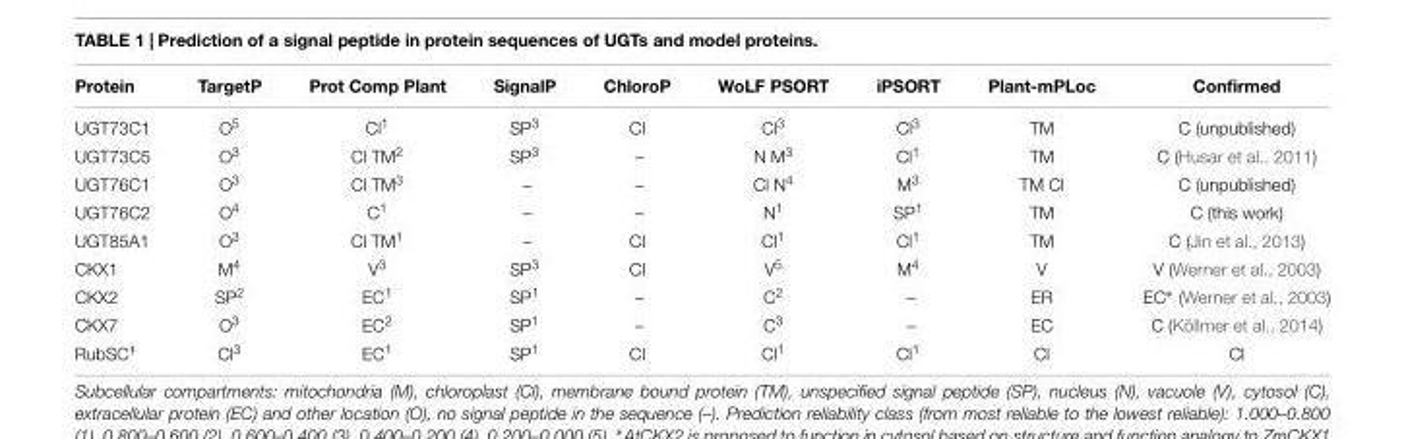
<table><thead><tr><td>Protein</td><td>TargetP</td><td>Prot Comp Plant</td><td>SignalP</td><td>ChloroP</td><td>WoLF PSORT</td><td>iPSORT</td><td>Plant-mPLoc</td><td>Confirmed</td></tr></thead><tbody><tr><td>UGT73C1</td><td>O<sup>5</sup></td><td>Cl<sup>1</sup></td><td>SP<sup>3</sup></td><td>Cl</td><td>Cl<sup>3</sup></td><td>Cl<sup>3</sup></td><td>TM</td><td>C (unpublished)</td></tr><tr><td>UGT73C5</td><td>O<sup>3</sup></td><td>Cl TM<sup>2</sup></td><td>SP<sup>3</sup></td><td>–</td><td>N M<sup>3</sup></td><td>Cl<sup>1</sup></td><td>TM</td><td>C (Husar et al., 2011)</td></tr><tr><td>UGT76C1</td><td>O<sup>3</sup></td><td>Cl TM<sup>3</sup></td><td>–</td><td>–</td><td>Cl N<sup>4</sup></td><td>M<sup>3</sup></td><td>TM Cl</td><td>C (unpublished)</td></tr><tr><td>UGT76C2</td><td>O<sup>4</sup></td><td>C<sup>1</sup></td><td>–</td><td>–</td><td>N<sup>1</sup></td><td>SP<sup>1</sup></td><td>TM</td><td>C (this work)</td></tr><tr><td>UGT85A1</td><td>O<sup>3</sup></td><td>Cl TM<sup>1</sup></td><td>–</td><td>Cl</td><td>Cl<sup>1</sup></td><td>Cl<sup>1</sup></td><td>TM</td><td>C (Jin et al., 2013)</td></tr><tr><td>CKX1</td><td>M<sup>4</sup></td><td>V<sup>3</sup></td><td>SP<sup>3</sup></td><td>Cl</td><td>V<sup>5</sup></td><td>M<sup>4</sup></td><td>V</td><td>V (Werner et al., 2003)</td></tr><tr><td>CKX2</td><td>SP<sup>2</sup></td><td>EC<sup>1</sup></td><td>SP<sup>1</sup></td><td>–</td><td>C<sup>2</sup></td><td>–</td><td>ER</td><td>EC∗ (Werner et al., 2003)</td></tr><tr><td>CKX7</td><td>O<sup>3</sup></td><td>EC<sup>2</sup></td><td>SP<sup>1</sup></td><td>–</td><td>C<sup>3</sup></td><td>–</td><td>EC</td><td>C (Köllmer et al., 2014)</td></tr><tr><td>RubSC<sup>†</sup></td><td>Cl<sup>3</sup></td><td>EC<sup>1</sup></td><td>SP<sup>1</sup></td><td>Cl</td><td>Cl<sup>1</sup></td><td>Cl<sup>1</sup></td><td>Cl</td><td>Cl</td></tr></tbody></table>